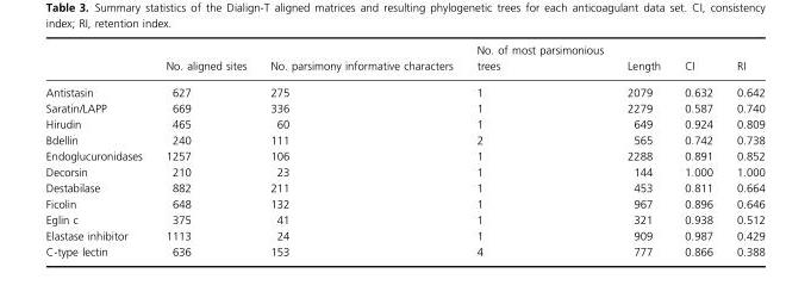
<table><thead><tr><td></td><td>No. aligned sites</td><td>No. parsimony informative characters</td><td>No. of most parsimonious trees</td><td>Length</td><td>CI</td><td>RI</td></tr></thead><tbody><tr><td>Antistasin</td><td>627</td><td>275</td><td>1</td><td>2079</td><td>0.632</td><td>0.642</td></tr><tr><td>Saratin/LAPP</td><td>669</td><td>336</td><td>1</td><td>2279</td><td>0.587</td><td>0.740</td></tr><tr><td>Hirudin</td><td>465</td><td>60</td><td>1</td><td>649</td><td>0.924</td><td>0.809</td></tr><tr><td>Bdellin</td><td>240</td><td>111</td><td>2</td><td>565</td><td>0.742</td><td>0.738</td></tr><tr><td>Endoglucuronidases</td><td>1257</td><td>106</td><td>1</td><td>2288</td><td>0.891</td><td>0.852</td></tr><tr><td>Decorsin</td><td>210</td><td>23</td><td>1</td><td>144</td><td>1.000</td><td>1.000</td></tr><tr><td>Destabilase</td><td>882</td><td>211</td><td>1</td><td>453</td><td>0.811</td><td>0.664</td></tr><tr><td>Ficolin</td><td>648</td><td>132</td><td>1</td><td>967</td><td>0.896</td><td>0.646</td></tr><tr><td>Eglin c</td><td>375</td><td>41</td><td>1</td><td>321</td><td>0.938</td><td>0.512</td></tr><tr><td>Elastase inhibitor</td><td>1113</td><td>24</td><td>1</td><td>909</td><td>0.987</td><td>0.429</td></tr><tr><td>C-type lectin</td><td>636</td><td>153</td><td>4</td><td>777</td><td>0.866</td><td>0.388</td></tr></tbody></table>